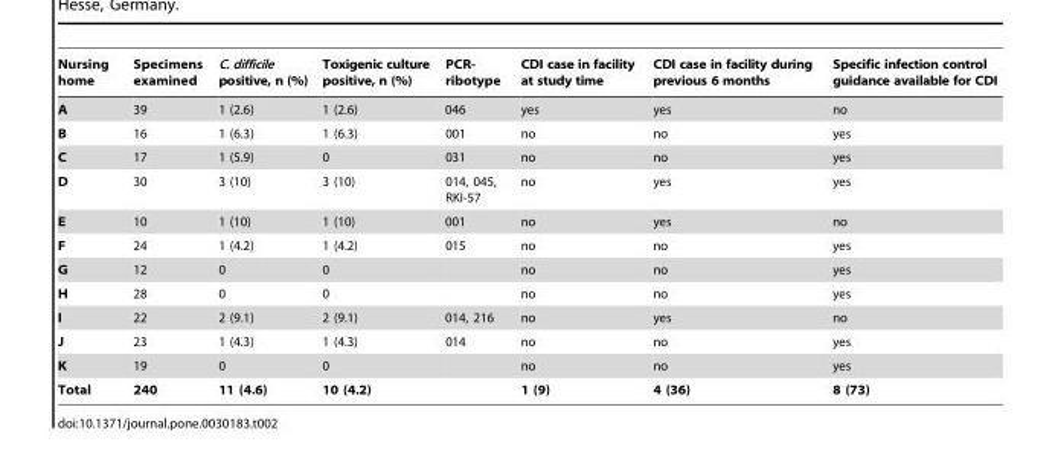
<table><thead><tr><td>Nursing home</td><td>Specimens examined</td><td>C. difficile positive, n (%)</td><td>Toxigenic culture positive, n (%)</td><td>PCR- ribotype</td><td>CDI case in facility at study time</td><td>CDI case in facility during previous 6 months</td><td>Specific infection control guidance available for CDI</td></tr></thead><tbody><tr><td>A</td><td>39</td><td>1 (2.6)</td><td>1 (2.6)</td><td>046</td><td>yes</td><td>yes</td><td>no</td></tr><tr><td>B</td><td>16</td><td>1 (6.3)</td><td>1 (6.3)</td><td>001</td><td>no</td><td>no</td><td>yes</td></tr><tr><td>C</td><td>17</td><td>1 (5.9)</td><td>0</td><td>031</td><td>no</td><td>no</td><td>yes</td></tr><tr><td>D</td><td>30</td><td>3 (10)</td><td>3 (10)</td><td>014, 045, RKI-57</td><td>no</td><td>yes</td><td>yes</td></tr><tr><td>E</td><td>10</td><td>1 (10)</td><td>1 (10)</td><td>001</td><td>no</td><td>yes</td><td>no</td></tr><tr><td>F</td><td>24</td><td>1 (4.2)</td><td>1 (4.2)</td><td>015</td><td>no</td><td>no</td><td>yes</td></tr><tr><td>G</td><td>12</td><td>0</td><td>0</td><td></td><td>no</td><td>no</td><td>yes</td></tr><tr><td>H</td><td>28</td><td>0</td><td>0</td><td></td><td>no</td><td>no</td><td>yes</td></tr><tr><td>I</td><td>22</td><td>2 (9.1)</td><td>2 (9.1)</td><td>014, 216</td><td>no</td><td>yes</td><td>no</td></tr><tr><td>J</td><td>23</td><td>1 (4.3)</td><td>1 (4.3)</td><td>014</td><td>no</td><td>no</td><td>yes</td></tr><tr><td>K</td><td>19</td><td>0</td><td>0</td><td></td><td>no</td><td>no</td><td>yes</td></tr><tr><td>Total</td><td>240</td><td>11 (4.6)</td><td>10 (4.2)</td><td></td><td>1 (9)</td><td>4 (36)</td><td>8 (73)</td></tr></tbody></table>